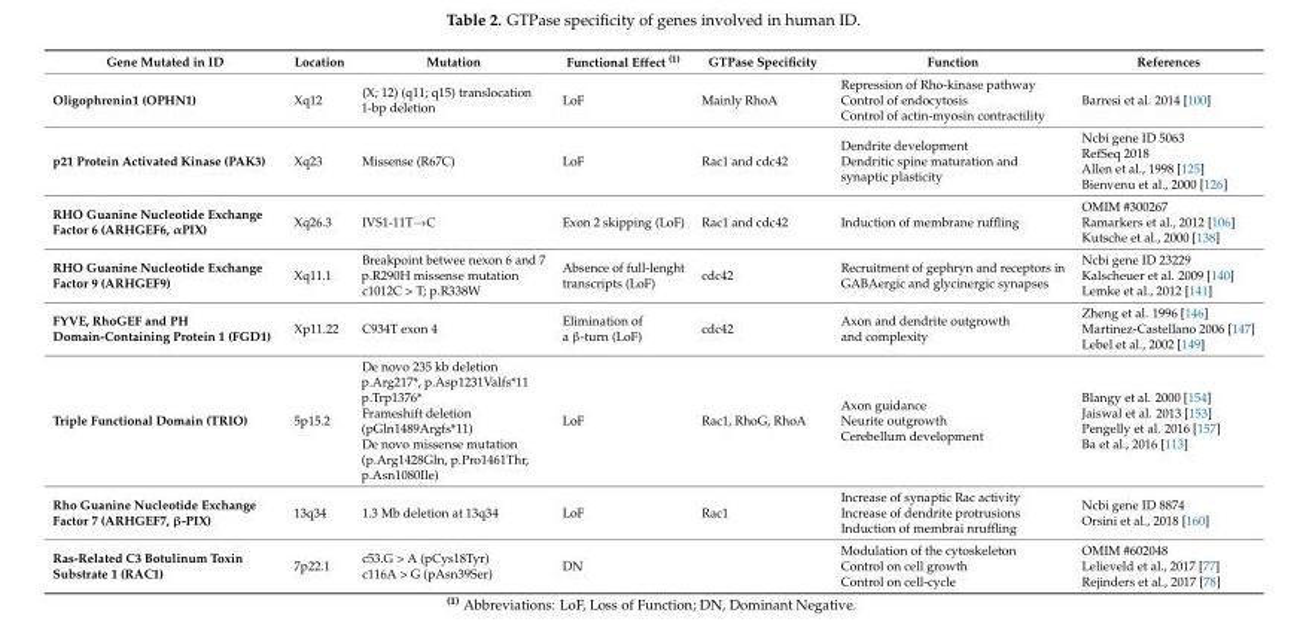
<table><thead><tr><td>Gene Mutated in ID</td><td>Location</td><td>Mutation</td><td>Functional Effect <sup>(1)</sup></td><td>GTPase Specificity</td><td>Function</td><td>References</td></tr></thead><tbody><tr><td>Oligophrenin1 (OPHN1)</td><td>Xq12</td><td>(X; 12) (q11; q15) translocation 1-bp deletion</td><td>LoF</td><td>Mainly RhoA</td><td>Repression of Rho-kinase pathway Control of endocytosis Control of actin-myosin contractility</td><td>Barresi et al. 2014 [100]</td></tr><tr><td>p21 Protein Activated Kinase (PAK3)</td><td>Xq23</td><td>Missense (R67C)</td><td>LoF</td><td>Rac1 and cdc42</td><td>Dendrite development Dendritic spine maturation and synaptic plasticity</td><td>Ncbi gene ID 5063 RefSeq 2018 Allen et al., 1998 [125] Bienvenu et al., 2000 [126]</td></tr><tr><td>RHO Guanine Nucleotide Exchange Factor 6 (ARHGEF6, αPIX)</td><td>Xq26.3</td><td>IVS1-11T→C</td><td>Exon 2 skipping (LoF)</td><td>Rac1 and cdc42</td><td>Induction of membrane ruffling</td><td>OMIM #300267 Ramarkers et al., 2012 [106] Kutsche et al., 2000 [138]</td></tr><tr><td>RHO Guanine Nucleotide Exchange Factor 9 (ARHGEF9)</td><td>Xq11.1</td><td>Breakpoint betwee nexon 6 and 7 p.R290H missense mutation c1012C &gt; T; p.R338W</td><td>Absence of full-lenght transcripts (LoF)</td><td>cdc42</td><td>Recruitment of gephryn and receptors in GABAergic and glycinergic synapses</td><td>Ncbi gene ID 23229 Kalscheuer et al. 2009 [140] Lemke et al., 2012 [141]</td></tr><tr><td>FYVE, RhoGEF and PH Domain-Containing Protein 1 (FGD1)</td><td>Xp11.22</td><td>C934T exon 4</td><td>Elimination of a β-turn (LoF)</td><td>cdc42</td><td>Axon and dendrite outgrowth and complexity</td><td>Zheng et al. 1996 [146] Martinez-Castellano 2006 [147] Lebel et al., 2002 [149]</td></tr><tr><td>Triple Functional Domain (TRIO)</td><td>5p15.2</td><td>De novo 235 kb deletion p.Arg217*, p.Asp1231Valfs*11 p.Trp1376* Frameshift deletion (pGln1489Argfs*11) De novo missense mutation (p.Arg1428Gln, p.Pro1461Thr, p.Asn1080Ile)</td><td>LoF</td><td>Rac1, RhoG, RhoA</td><td>Axon guidance Neurite outgrowth Cerebellum development</td><td>Blangy et al. 2000 [154] Jaiswal et al. 2013 [153] Pengelly et al. 2016 [157] Ba et al., 2016 [113]</td></tr><tr><td>Rho Guanine Nucleotide Exchange Factor 7 (ARHGEF7, β-PIX)</td><td>13q34</td><td>1.3 Mb deletion at 13q34</td><td>LoF</td><td>Rac1</td><td>Increase of synaptic Rac activity Increase of dendrite protrusions Induction of membrai nruffling</td><td>Ncbi gene ID 8874 Orsini et al., 2018 [160]</td></tr><tr><td>Ras-Related C3 Botulinum Toxin Substrate 1 (RAC1)</td><td>7p22.1</td><td>c53.G &gt; A (pCys18Tyr) c116A &gt; G (pAsn39Ser)</td><td>DN</td><td></td><td>Modulation of the cytoskeleton Control on cell growth Control on cell-cycle</td><td>OMIM #602048 Lelieveld et al., 2017 [77] Rejinders et al., 2017 [78]</td></tr></tbody></table>